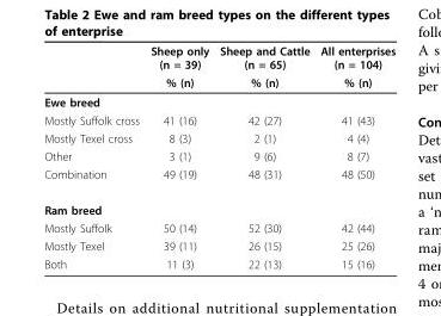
<table><thead><tr><td rowspan="2"></td><td rowspan="2">Sheep only (n = 39) % (n)</td><td rowspan="2">Sheep and Cattle (n = 65) % (n)</td><td rowspan="2">All enterprises (n = 104) % (n)</td></tr><tr></tr></thead><tbody><tr><td colspan="4">Ewe breed</td></tr><tr><td>Mostly Suffolk cross</td><td>41 (16)</td><td>42 (27)</td><td>41 (43)</td></tr><tr><td>Mostly Texel cross</td><td>8 (3)</td><td>2 (1)</td><td>4 (4)</td></tr><tr><td>Other</td><td>3 (1)</td><td>9 (6)</td><td>8 (7)</td></tr><tr><td>Combination</td><td>49 (19)</td><td>48 (31)</td><td>48 (50)</td></tr><tr><td colspan="4">Ram breed</td></tr><tr><td>Mostly Suffolk</td><td>50 (14)</td><td>52 (30)</td><td>42 (44)</td></tr><tr><td>Mostly Texel</td><td>39 (11)</td><td>26 (15)</td><td>25 (26)</td></tr><tr><td>Both</td><td>11 (3)</td><td>22 (13)</td><td>15 (16)</td></tr></tbody></table>